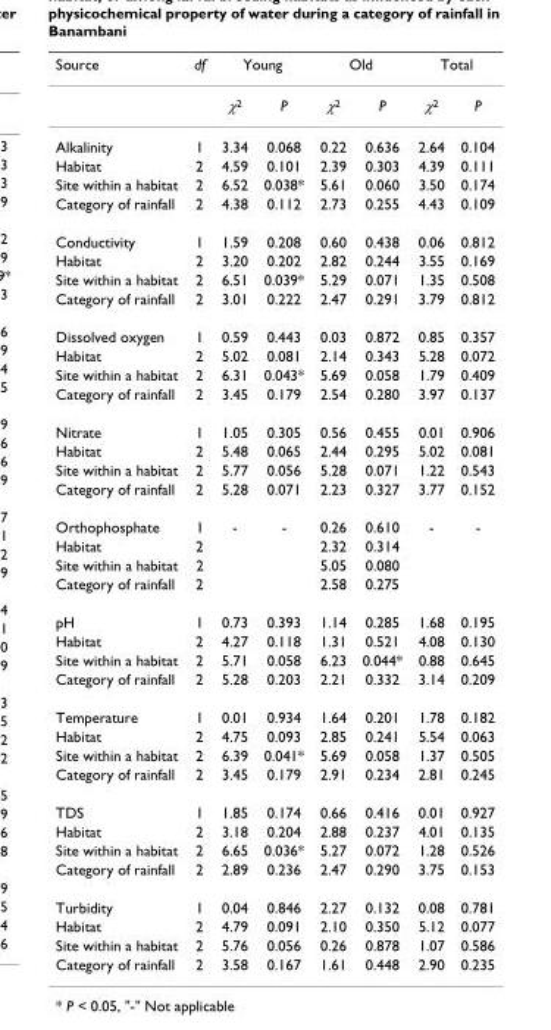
<table><thead><tr><td rowspan="2">Source</td><td rowspan="2">df</td><td colspan="2">Young</td><td colspan="2">Old</td><td colspan="2">Total</td></tr><tr><td>χ2</td><td>P</td><td>χ2</td><td>P</td><td>χ2</td><td>P</td></tr></thead><tbody><tr><td>Alkalinity</td><td>1</td><td>3.34</td><td>0.068</td><td>0.22</td><td>0.636</td><td>2.64</td><td>0.104</td></tr><tr><td>Habitat</td><td>2</td><td>4.59</td><td>0.101</td><td>2.39</td><td>0.303</td><td>4.39</td><td>0.111</td></tr><tr><td>Site within a habitat</td><td>2</td><td>6.52</td><td>0.038*</td><td>5.61</td><td>0.060</td><td>3.50</td><td>0.174</td></tr><tr><td>Category of rainfall</td><td>2</td><td>4.38</td><td>0.112</td><td>2.73</td><td>0.255</td><td>4.43</td><td>0.109</td></tr><tr><td>Conductivity</td><td>1</td><td>1.59</td><td>0.208</td><td>0.60</td><td>0.438</td><td>0.06</td><td>0.812</td></tr><tr><td>Habitat</td><td>2</td><td>3.20</td><td>0.202</td><td>2.82</td><td>0.244</td><td>3.55</td><td>0.169</td></tr><tr><td>Site within a habitat</td><td>2</td><td>6.51</td><td>0.039*</td><td>5.29</td><td>0.071</td><td>1.35</td><td>0.508</td></tr><tr><td>Category of rainfall</td><td>2</td><td>3.01</td><td>0.222</td><td>2.47</td><td>0.291</td><td>3.79</td><td>0.812</td></tr><tr><td>Dissolved oxygen</td><td>1</td><td>0.59</td><td>0.443</td><td>0.03</td><td>0.872</td><td>0.85</td><td>0.357</td></tr><tr><td>Habitat</td><td>2</td><td>5.02</td><td>0.081</td><td>2.14</td><td>0.343</td><td>5.28</td><td>0.072</td></tr><tr><td>Site within a habitat</td><td>2</td><td>6.31</td><td>0.043*</td><td>5.69</td><td>0.058</td><td>1.79</td><td>0.409</td></tr><tr><td>Category of rainfall</td><td>2</td><td>3.45</td><td>0.179</td><td>2.54</td><td>0.280</td><td>3.97</td><td>0.137</td></tr><tr><td>Nitrate</td><td>1</td><td>1.05</td><td>0.305</td><td>0.56</td><td>0.455</td><td>0.01</td><td>0.906</td></tr><tr><td>Habitat</td><td>2</td><td>5.48</td><td>0.065</td><td>2.44</td><td>0.295</td><td>5.02</td><td>0.081</td></tr><tr><td>Site within a habitat</td><td>2</td><td>5.77</td><td>0.056</td><td>5.28</td><td>0.071</td><td>1.22</td><td>0.543</td></tr><tr><td>Category of rainfall</td><td>2</td><td>5.28</td><td>0.071</td><td>2.23</td><td>0.327</td><td>3.77</td><td>0.152</td></tr><tr><td>Orthophosphate</td><td>1</td><td>-</td><td>-</td><td>0.26</td><td>0.610</td><td>-</td><td>-</td></tr><tr><td>Habitat</td><td>2</td><td></td><td></td><td>2.32</td><td>0.314</td><td></td><td></td></tr><tr><td>Site within a habitat</td><td>2</td><td></td><td></td><td>5.05</td><td>0.080</td><td></td><td></td></tr><tr><td>Category of rainfall</td><td>2</td><td></td><td></td><td>2.58</td><td>0.275</td><td></td><td></td></tr><tr><td>pH</td><td>1</td><td>0.73</td><td>0.393</td><td>1.14</td><td>0.285</td><td>1.68</td><td>0.195</td></tr><tr><td>Habitat</td><td>2</td><td>4.27</td><td>0.118</td><td>1.31</td><td>0.521</td><td>4.08</td><td>0.130</td></tr><tr><td>Site within a habitat</td><td>2</td><td>5.71</td><td>0.058</td><td>6.23</td><td>0.044*</td><td>0.88</td><td>0.645</td></tr><tr><td>Category of rainfall</td><td>2</td><td>5.28</td><td>0.203</td><td>2.21</td><td>0.332</td><td>3.14</td><td>0.209</td></tr><tr><td>Temperature</td><td>1</td><td>0.01</td><td>0.934</td><td>1.64</td><td>0.201</td><td>1.78</td><td>0.182</td></tr><tr><td>Habitat</td><td>2</td><td>4.75</td><td>0.093</td><td>2.85</td><td>0.241</td><td>5.54</td><td>0.063</td></tr><tr><td>Site within a habitat</td><td>2</td><td>6.39</td><td>0.041*</td><td>5.69</td><td>0.058</td><td>1.37</td><td>0.505</td></tr><tr><td>Category of rainfall</td><td>2</td><td>3.45</td><td>0.179</td><td>2.91</td><td>0.234</td><td>2.81</td><td>0.245</td></tr><tr><td>TDS</td><td>1</td><td>1.85</td><td>0.174</td><td>0.66</td><td>0.416</td><td>0.01</td><td>0.927</td></tr><tr><td>Habitat</td><td>2</td><td>3.18</td><td>0.204</td><td>2.88</td><td>0.237</td><td>4.01</td><td>0.135</td></tr><tr><td>Site within a habitat</td><td>2</td><td>6.65</td><td>0.036*</td><td>5.27</td><td>0.072</td><td>1.28</td><td>0.526</td></tr><tr><td>Category of rainfall</td><td>2</td><td>2.89</td><td>0.236</td><td>2.47</td><td>0.290</td><td>3.75</td><td>0.153</td></tr><tr><td>Turbidity</td><td>1</td><td>0.04</td><td>0.846</td><td>2.27</td><td>0.132</td><td>0.08</td><td>0.781</td></tr><tr><td>Habitat</td><td>2</td><td>4.79</td><td>0.091</td><td>2.10</td><td>0.350</td><td>5.12</td><td>0.077</td></tr><tr><td>Site within a habitat</td><td>2</td><td>5.76</td><td>0.056</td><td>0.26</td><td>0.878</td><td>1.07</td><td>0.586</td></tr><tr><td>Category of rainfall</td><td>2</td><td>3.58</td><td>0.167</td><td>1.61</td><td>0.448</td><td>2.90</td><td>0.235</td></tr></tbody></table>